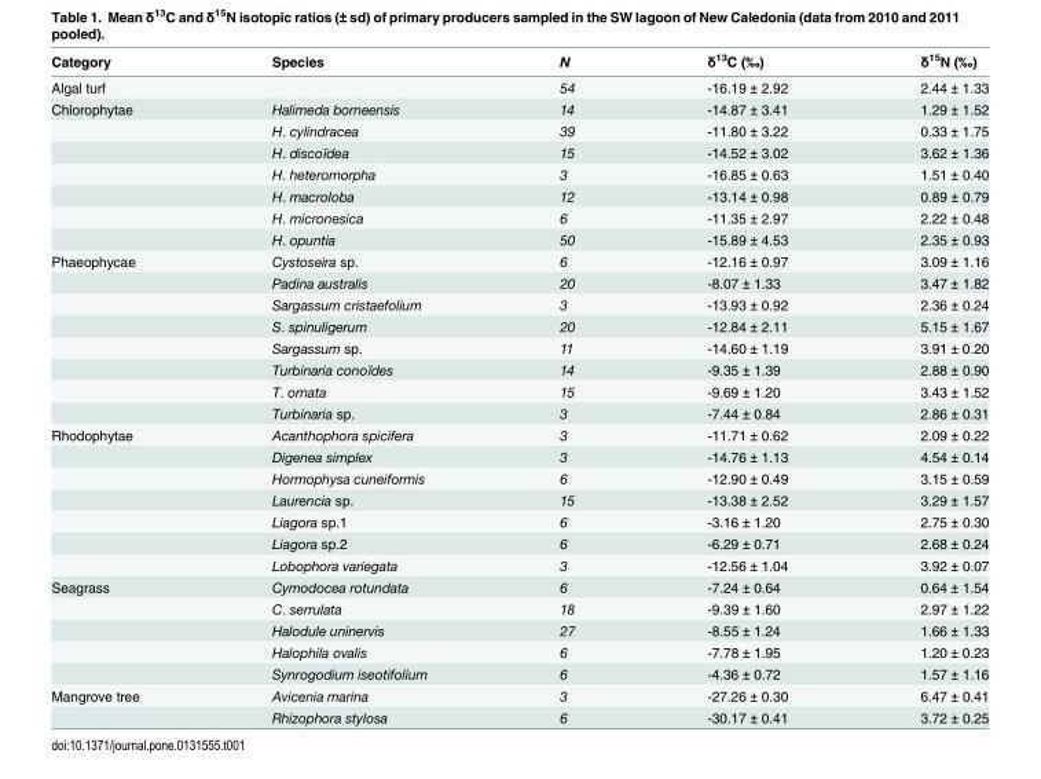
<table><thead><tr><td>Category</td><td>Species</td><td>N</td><td>δ<sup>13</sup>C (‰)</td><td>δ<sup>15</sup>N (‰)</td></tr></thead><tbody><tr><td>Algal turf</td><td></td><td>54</td><td>-16.19 ± 2.92</td><td>2.44 ± 1.33</td></tr><tr><td rowspan="7">Chlorophytae</td><td>Halimeda borneensis</td><td>14</td><td>-14.87 ± 3.41</td><td>1.29 ± 1.52</td></tr><tr><td>H. cylindracea</td><td>39</td><td>-11.80 ± 3.22</td><td>0.33 ± 1.75</td></tr><tr><td>H. discoïdea</td><td>15</td><td>-14.52 ± 3.02</td><td>3.62 ± 1.36</td></tr><tr><td>H. heteromorpha</td><td>3</td><td>-16.85 ± 0.63</td><td>1.51 ± 0.40</td></tr><tr><td>H. macroloba</td><td>12</td><td>-13.14 ± 0.98</td><td>0.89 ± 0.79</td></tr><tr><td>H. micronesica</td><td>6</td><td>-11.35 ± 2.97</td><td>2.22 ± 0.48</td></tr><tr><td>H. opuntia</td><td>50</td><td>-15.89 ± 4.53</td><td>2.35 ± 0.93</td></tr><tr><td rowspan="8">Phaeophycae</td><td>Cystoseira sp.</td><td>6</td><td>-12.16 ± 0.97</td><td>3.09 ± 1.16</td></tr><tr><td>Padina australis</td><td>20</td><td>-8.07 ± 1.33</td><td>3.47 ± 1.82</td></tr><tr><td>Sargassum cristaefolium</td><td>3</td><td>-13.93 ± 0.92</td><td>2.36 ± 0.24</td></tr><tr><td>S. spinuligerum</td><td>20</td><td>-12.84 ± 2.11</td><td>5.15 ± 1.67</td></tr><tr><td>Sargassum sp.</td><td>11</td><td>-14.60 ± 1.19</td><td>3.91 ± 0.20</td></tr><tr><td>Turbinaria conoïdes</td><td>14</td><td>-9.35 ± 1.39</td><td>2.88 ± 0.90</td></tr><tr><td>T. ornata</td><td>15</td><td>-9.69 ± 1.20</td><td>3.43 ± 1.52</td></tr><tr><td>Turbinaria sp.</td><td>3</td><td>-7.44 ± 0.84</td><td>2.86 ± 0.31</td></tr><tr><td rowspan="7">Rhodophytae</td><td>Acanthophora spicifera</td><td>3</td><td>-11.71 ± 0.62</td><td>2.09 ± 0.22</td></tr><tr><td>Digenea simplex</td><td>3</td><td>-14.76 ± 1.13</td><td>4.54 ± 0.14</td></tr><tr><td>Hormophysa cuneiformis</td><td>6</td><td>-12.90 ± 0.49</td><td>3.15 ± 0.59</td></tr><tr><td>Laurencia sp.</td><td>15</td><td>-13.38 ± 2.52</td><td>3.29 ± 1.57</td></tr><tr><td>Liagora sp.1</td><td>6</td><td>-3.16 ± 1.20</td><td>2.75 ± 0.30</td></tr><tr><td>Liagora sp.2</td><td>6</td><td>-6.29 ± 0.71</td><td>2.68 ± 0.24</td></tr><tr><td>Lobophora variegata</td><td>3</td><td>-12.56 ± 1.04</td><td>3.92 ± 0.07</td></tr><tr><td rowspan="5">Seagrass</td><td>Cymodocea rotundata</td><td>6</td><td>-7.24 ± 0.64</td><td>0.64 ± 1.54</td></tr><tr><td>C. serrulata</td><td>18</td><td>-9.39 ± 1.60</td><td>2.97 ± 1.22</td></tr><tr><td>Halodule uninervis</td><td>27</td><td>-8.55 ± 1.24</td><td>1.66 ± 1.33</td></tr><tr><td>Halophila ovalis</td><td>6</td><td>-7.78 ± 1.95</td><td>1.20 ± 0.23</td></tr><tr><td>Synrogodium iseotifolium</td><td>6</td><td>-4.36 ± 0.72</td><td>1.57 ± 1.16</td></tr><tr><td rowspan="2">Mangrove tree</td><td>Avicenia marina</td><td>3</td><td>-27.26 ± 0.30</td><td>6.47 ± 0.41</td></tr><tr><td>Rhizophora stylosa</td><td>6</td><td>-30.17 ± 0.41</td><td>3.72 ± 0.25</td></tr></tbody></table>